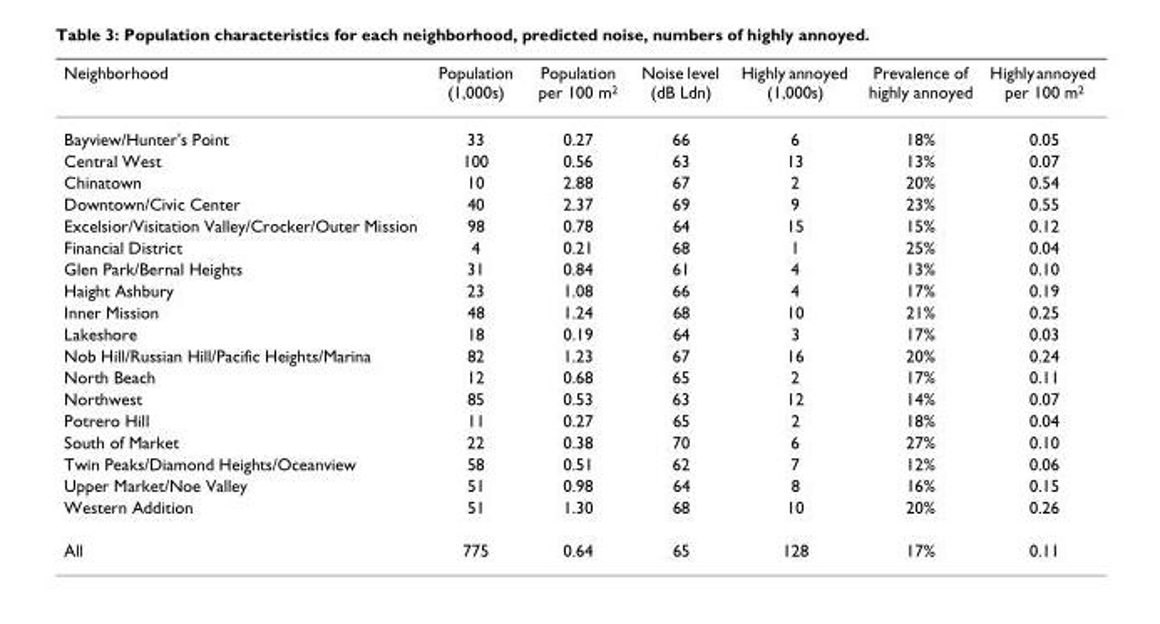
<table><thead><tr><td>Neighborhood</td><td>Population (1,000s)</td><td>Population per 100 m<sup>2</sup></td><td>Noise level (dB Ldn)</td><td>Highly annoyed (1,000s)</td><td>Prevalence of highly annoyed</td><td>Highly annoyed per 100 m<sup>2</sup></td></tr></thead><tbody><tr><td>Bayview/Hunter&#x27;s Point</td><td>33</td><td>0.27</td><td>66</td><td>6</td><td>18%</td><td>0.05</td></tr><tr><td>Central West</td><td>100</td><td>0.56</td><td>63</td><td>13</td><td>13%</td><td>0.07</td></tr><tr><td>Chinatown</td><td>10</td><td>2.88</td><td>67</td><td>2</td><td>20%</td><td>0.54</td></tr><tr><td>Downtown/Civic Center</td><td>40</td><td>2.37</td><td>69</td><td>9</td><td>23%</td><td>0.55</td></tr><tr><td>Excelsior/Visitation Valley/Crocker/Outer Mission</td><td>98</td><td>0.78</td><td>64</td><td>15</td><td>15%</td><td>0.12</td></tr><tr><td>Financial District</td><td>4</td><td>0.21</td><td>68</td><td>1</td><td>25%</td><td>0.04</td></tr><tr><td>Glen Park/Bernal Heights</td><td>31</td><td>0.84</td><td>61</td><td>4</td><td>13%</td><td>0.10</td></tr><tr><td>Haight Ashbury</td><td>23</td><td>1.08</td><td>66</td><td>4</td><td>17%</td><td>0.19</td></tr><tr><td>Inner Mission</td><td>48</td><td>1.24</td><td>68</td><td>10</td><td>21%</td><td>0.25</td></tr><tr><td>Lakeshore</td><td>18</td><td>0.19</td><td>64</td><td>3</td><td>17%</td><td>0.03</td></tr><tr><td>Nob Hill/Russian Hill/Pacific Heights/Marina</td><td>82</td><td>1.23</td><td>67</td><td>16</td><td>20%</td><td>0.24</td></tr><tr><td>North Beach</td><td>12</td><td>0.68</td><td>65</td><td>2</td><td>17%</td><td>0.11</td></tr><tr><td>Northwest</td><td>85</td><td>0.53</td><td>63</td><td>12</td><td>14%</td><td>0.07</td></tr><tr><td>Potrero Hill</td><td>11</td><td>0.27</td><td>65</td><td>2</td><td>18%</td><td>0.04</td></tr><tr><td>South of Market</td><td>22</td><td>0.38</td><td>70</td><td>6</td><td>27%</td><td>0.10</td></tr><tr><td>Twin Peaks/Diamond Heights/Oceanview</td><td>58</td><td>0.51</td><td>62</td><td>7</td><td>12%</td><td>0.06</td></tr><tr><td>Upper Market/Noe Valley</td><td>51</td><td>0.98</td><td>64</td><td>8</td><td>16%</td><td>0.15</td></tr><tr><td>Western Addition</td><td>51</td><td>1.30</td><td>68</td><td>10</td><td>20%</td><td>0.26</td></tr><tr><td>All</td><td>775</td><td>0.64</td><td>65</td><td>128</td><td>17%</td><td>0.11</td></tr></tbody></table>